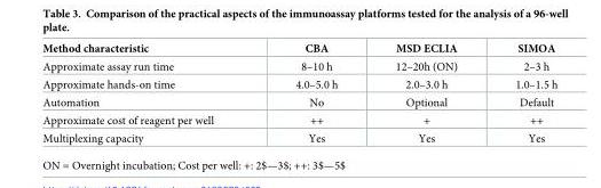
<table><thead><tr><td>Method characteristic</td><td>CBA</td><td>MSD ECLIA</td><td>SIMOA</td></tr></thead><tbody><tr><td>Approximate assay run time</td><td>8–10 h</td><td>12–20h (ON)</td><td>2–3 h</td></tr><tr><td>Approximate hands-on time</td><td>4.0–5.0 h</td><td>2.0–3.0 h</td><td>1.0–1.5 h</td></tr><tr><td>Automation</td><td>No</td><td>Optional</td><td>Default</td></tr><tr><td>Approximate cost of reagent per well</td><td>++</td><td>+</td><td>++</td></tr><tr><td>Multiplexing capacity</td><td>Yes</td><td>Yes</td><td>Yes</td></tr></tbody></table>